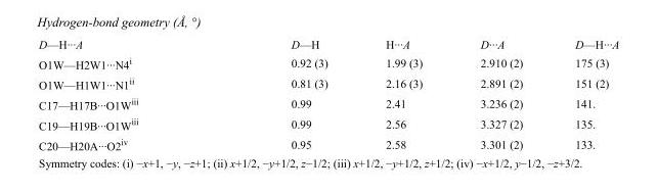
<table><tbody><tr><td>D—H···A</td><td>D—H</td><td>H···A</td><td>D···A</td><td>D—H···A</td></tr><tr><td>O1W—H2W1···N4<sup>i</sup></td><td>0.92 (3)</td><td>1.99 (3)</td><td>2.910 (2)</td><td>175 (3)</td></tr><tr><td>O1W—H1W1···N1<sup>ii</sup></td><td>0.81 (3)</td><td>2.16 (3)</td><td>2.891 (2)</td><td>151 (2)</td></tr><tr><td>C17—H17B···O1W<sup>iii</sup></td><td>0.99</td><td>2.41</td><td>3.236 (2)</td><td>141.</td></tr><tr><td>C19—H19B···O1W<sup>iii</sup></td><td>0.99</td><td>2.56</td><td>3.327 (2)</td><td>135.</td></tr><tr><td>C20—H20A···O2<sup>iv</sup></td><td>0.95</td><td>2.58</td><td>3.301 (2)</td><td>133.</td></tr></tbody></table>